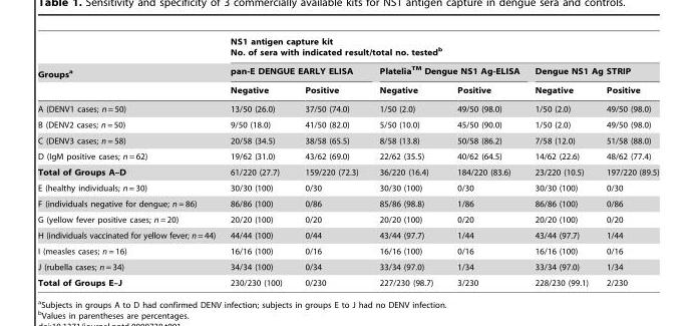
<table><thead><tr><td rowspan="3">Groups<sup>a</sup></td><td colspan="6">NS1 antigen capture kit No. of sera with indicated result/total no. tested<sup>b</sup></td></tr><tr><td colspan="2">pan-E DENGUE EARLY ELISA</td><td colspan="2">PlateliaTM Dengue NS1 Ag-ELISA</td><td colspan="2">Dengue NS1 Ag STRIP</td></tr><tr><td>Negative</td><td>Positive</td><td>Negative</td><td>Positive</td><td>Negative</td><td>Positive</td></tr></thead><tbody><tr><td>A (DENV1 cases; n = 50)</td><td>13/50 (26.0)</td><td>37/50 (74.0)</td><td>1/50 (2.0)</td><td>49/50 (98.0)</td><td>1/50 (2.0)</td><td>49/50 (98.0)</td></tr><tr><td>B (DENV2 cases; n = 50)</td><td>9/50 (18.0)</td><td>41/50 (82.0)</td><td>5/50 (10.0)</td><td>45/50 (90.0)</td><td>1/50 (2.0)</td><td>49/50 (98.0)</td></tr><tr><td>C (DENV3 cases; n = 58)</td><td>20/58 (34.5)</td><td>38/58 (65.5)</td><td>8/58 (13.8)</td><td>50/58 (86.2)</td><td>7/58 (12.0)</td><td>51/58 (88.0)</td></tr><tr><td>D (IgM positive cases; n = 62)</td><td>19/62 (31.0)</td><td>43/62 (69.0)</td><td>22/62 (35.5)</td><td>40/62 (64.5)</td><td>14/62 (22.6)</td><td>48/62 (77.4)</td></tr><tr><td>Total of Groups A–D</td><td>61/220 (27.7)</td><td>159/220 (72.3)</td><td>36/220 (16.4)</td><td>184/220 (83.6)</td><td>23/220 (10.5)</td><td>197/220 (89.5)</td></tr><tr><td>E (healthy individuals; n = 30)</td><td>30/30 (100)</td><td>0/30</td><td>30/30 (100)</td><td>0/30</td><td>30/30 (100)</td><td>0/30</td></tr><tr><td>F (individuals negative for dengue; n = 86)</td><td>86/86 (100)</td><td>0/86</td><td>85/86 (98.8)</td><td>1/86</td><td>86/86 (100)</td><td>0/86</td></tr><tr><td>G (yellow fever positive cases; n = 20)</td><td>20/20 (100)</td><td>0/20</td><td>20/20 (100)</td><td>0/20</td><td>20/20 (100)</td><td>0/20</td></tr><tr><td>H (individuals vaccinated for yellow fever; n = 44)</td><td>44/44 (100)</td><td>0/44</td><td>43/44 (97.7)</td><td>1/44</td><td>43/44 (97.7)</td><td>1/44</td></tr><tr><td>I (measles cases; n = 16)</td><td>16/16 (100)</td><td>0/16</td><td>16/16 (100)</td><td>0/16</td><td>16/16 (100)</td><td>0/16</td></tr><tr><td>J (rubella cases; n = 34)</td><td>34/34 (100)</td><td>0/34</td><td>33/34 (97.0)</td><td>1/34</td><td>33/34 (97.0)</td><td>1/34</td></tr><tr><td>Total of Groups E–J</td><td>230/230 (100)</td><td>0/230</td><td>227/230 (98.7)</td><td>3/230</td><td>228/230 (99.1)</td><td>2/230</td></tr></tbody></table>